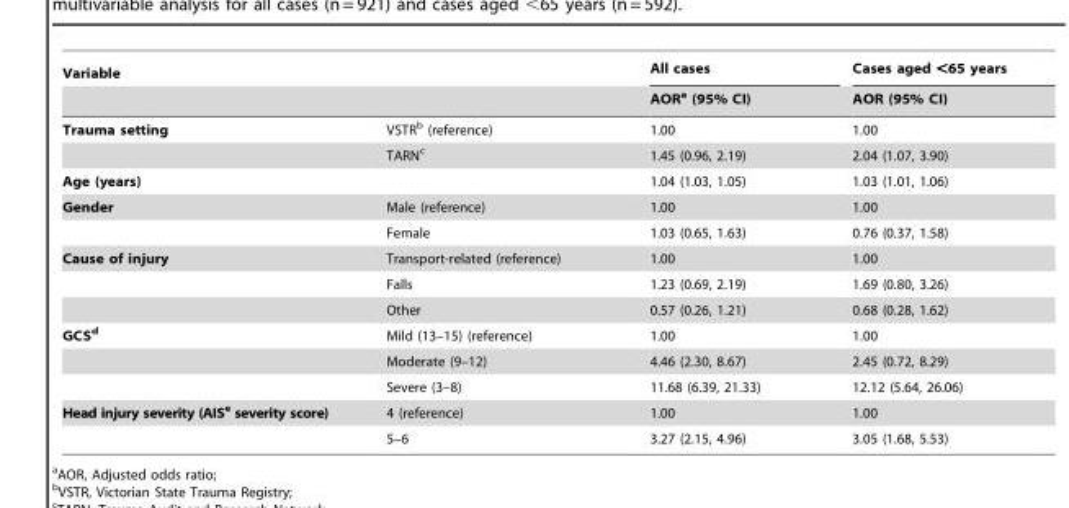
<table><thead><tr><td colspan="2">Variable</td><td rowspan="2">All cases AOR<sup>a</sup> (95% CI)</td><td rowspan="2">Cases aged &lt;65 years AOR (95% CI)</td></tr><tr><td></td><td></td></tr></thead><tbody><tr><td rowspan="2">Trauma setting</td><td>VSTR<sup>b</sup> (reference)</td><td>1.00</td><td>1.00</td></tr><tr><td>TARN<sup>c</sup></td><td>1.45 (0.96, 2.19)</td><td>2.04 (1.07, 3.90)</td></tr><tr><td>Age (years)</td><td></td><td>1.04 (1.03, 1.05)</td><td>1.03 (1.01, 1.06)</td></tr><tr><td rowspan="2">Gender</td><td>Male (reference)</td><td>1.00</td><td>1.00</td></tr><tr><td>Female</td><td>1.03 (0.65, 1.63)</td><td>0.76 (0.37, 1.58)</td></tr><tr><td rowspan="3">Cause of injury</td><td>Transport-related (reference)</td><td>1.00</td><td>1.00</td></tr><tr><td>Falls</td><td>1.23 (0.69, 2.19)</td><td>1.69 (0.80, 3.26)</td></tr><tr><td>Other</td><td>0.57 (0.26, 1.21)</td><td>0.68 (0.28, 1.62)</td></tr><tr><td rowspan="3">GCSd</td><td>Mild (13–15) (reference)</td><td>1.00</td><td>1.00</td></tr><tr><td>Moderate (9–12)</td><td>4.46 (2.30, 8.67)</td><td>2.45 (0.72, 8.29)</td></tr><tr><td>Severe (3–8)</td><td>11.68 (6.39, 21.33)</td><td>12.12 (5.64, 26.06)</td></tr><tr><td rowspan="2">Head injury severity (AISe severity score)</td><td>4 (reference)</td><td>1.00</td><td>1.00</td></tr><tr><td>5–6</td><td>3.27 (2.15, 4.96)</td><td>3.05 (1.68, 5.53)</td></tr></tbody></table>